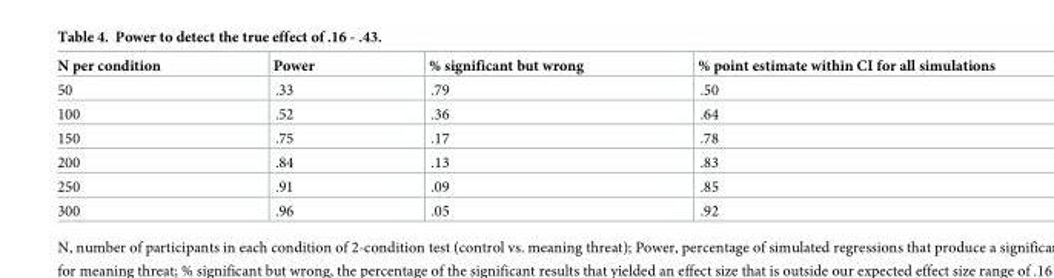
<table><thead><tr><td>N per condition</td><td>Power</td><td>% significant but wrong</td><td>% point estimate within CI for all simulations</td></tr></thead><tbody><tr><td>50</td><td>.33</td><td>.79</td><td>.50</td></tr><tr><td>100</td><td>.52</td><td>.36</td><td>.64</td></tr><tr><td>150</td><td>.75</td><td>.17</td><td>.78</td></tr><tr><td>200</td><td>.84</td><td>.13</td><td>.83</td></tr><tr><td>250</td><td>.91</td><td>.09</td><td>.85</td></tr><tr><td>300</td><td>.96</td><td>.05</td><td>.92</td></tr></tbody></table>